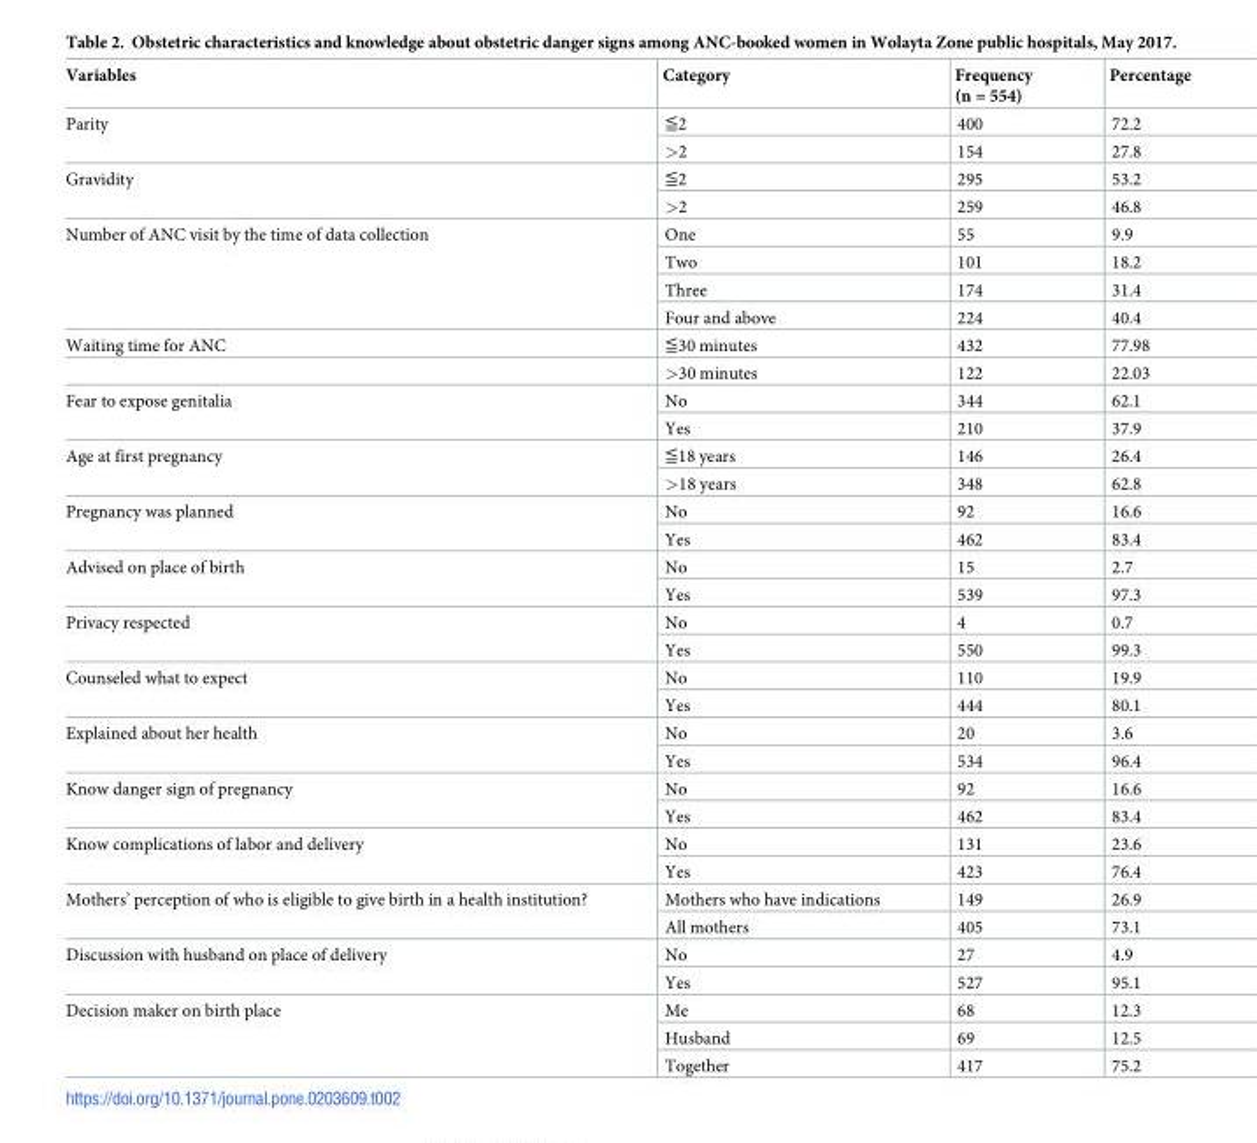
<table><thead><tr><td>Variables</td><td>Category</td><td>Frequency (n = 554)</td><td>Percentage</td></tr></thead><tbody><tr><td rowspan="2">Parity</td><td>≦2</td><td>400</td><td>72.2</td></tr><tr><td>&gt;2</td><td>154</td><td>27.8</td></tr><tr><td rowspan="2">Gravidity</td><td>≦2</td><td>295</td><td>53.2</td></tr><tr><td>&gt;2</td><td>259</td><td>46.8</td></tr><tr><td rowspan="4">Number of ANC visit by the time of data collection</td><td>One</td><td>55</td><td>9.9</td></tr><tr><td>Two</td><td>101</td><td>18.2</td></tr><tr><td>Three</td><td>174</td><td>31.4</td></tr><tr><td>Four and above</td><td>224</td><td>40.4</td></tr><tr><td rowspan="2">Waiting time for ANC</td><td>≦30 minutes</td><td>432</td><td>77.98</td></tr><tr><td>&gt;30 minutes</td><td>122</td><td>22.03</td></tr><tr><td rowspan="2">Fear to expose genitalia</td><td>No</td><td>344</td><td>62.1</td></tr><tr><td>Yes</td><td>210</td><td>37.9</td></tr><tr><td rowspan="2">Age at first pregnancy</td><td>≦18 years</td><td>146</td><td>26.4</td></tr><tr><td>&gt;18 years</td><td>348</td><td>62.8</td></tr><tr><td rowspan="2">Pregnancy was planned</td><td>No</td><td>92</td><td>16.6</td></tr><tr><td>Yes</td><td>462</td><td>83.4</td></tr><tr><td rowspan="2">Advised on place of birth</td><td>No</td><td>15</td><td>2.7</td></tr><tr><td>Yes</td><td>539</td><td>97.3</td></tr><tr><td rowspan="2">Privacy respected</td><td>No</td><td>4</td><td>0.7</td></tr><tr><td>Yes</td><td>550</td><td>99.3</td></tr><tr><td rowspan="2">Counseled what to expect</td><td>No</td><td>110</td><td>19.9</td></tr><tr><td>Yes</td><td>444</td><td>80.1</td></tr><tr><td rowspan="2">Explained about her health</td><td>No</td><td>20</td><td>3.6</td></tr><tr><td>Yes</td><td>534</td><td>96.4</td></tr><tr><td rowspan="2">Know danger sign of pregnancy</td><td>No</td><td>92</td><td>16.6</td></tr><tr><td>Yes</td><td>462</td><td>83.4</td></tr><tr><td rowspan="2">Know complications of labor and delivery</td><td>No</td><td>131</td><td>23.6</td></tr><tr><td>Yes</td><td>423</td><td>76.4</td></tr><tr><td rowspan="2">Mothers’ perception of who is eligible to give birth in a health institution?</td><td>Mothers who have indications</td><td>149</td><td>26.9</td></tr><tr><td>All mothers</td><td>405</td><td>73.1</td></tr><tr><td rowspan="2">Discussion with husband on place of delivery</td><td>No</td><td>27</td><td>4.9</td></tr><tr><td>Yes</td><td>527</td><td>95.1</td></tr><tr><td rowspan="3">Decision maker on birth place</td><td>Me</td><td>68</td><td>12.3</td></tr><tr><td>Husband</td><td>69</td><td>12.5</td></tr><tr><td>Together</td><td>417</td><td>75.2</td></tr></tbody></table>